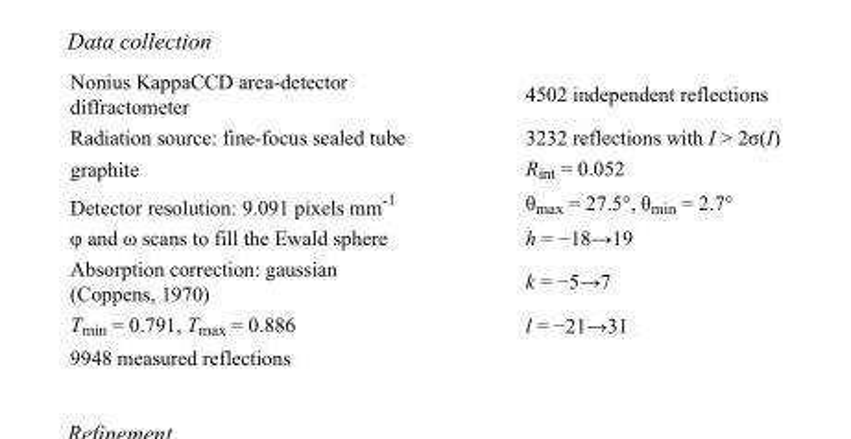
<table><tbody><tr><td>Nonius KappaCCD area-detector diffractometer</td><td>4502 independent reflections</td></tr><tr><td>Radiation source: fine-focus sealed tube</td><td>3232 reflections with I &gt; 2σ(I)</td></tr><tr><td>graphite</td><td>R<sub>int</sub> = 0.052</td></tr><tr><td>Detector resolution: 9.091 pixels mm<sup>-1</sup></td><td>θ<sub>max</sub> = 27.5°, θ<sub>min</sub> = 2.7°</td></tr><tr><td>φ and ω scans to fill the Ewald sphere</td><td>h = −18→19</td></tr><tr><td>Absorption correction: gaussian (Coppens, 1970)</td><td>k = −5→7</td></tr><tr><td>T<sub>min</sub> = 0.791, T<sub>max</sub> = 0.886</td><td>l = −21→31</td></tr><tr><td>9948 measured reflections</td><td></td></tr></tbody></table>